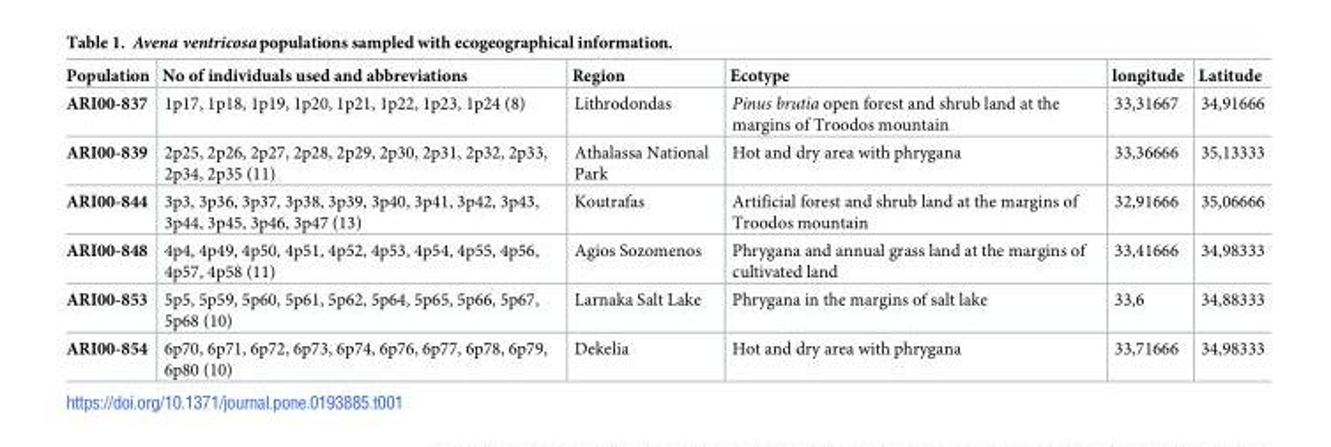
<table><thead><tr><td>Population</td><td>No of individuals used and abbreviations</td><td>Region</td><td>Ecotype</td><td>longitude</td><td>Latitude</td></tr></thead><tbody><tr><td>ARI00-837</td><td>1p17, 1p18, 1p19, 1p20, 1p21, 1p22, 1p23, 1p24 (8)</td><td>Lithrodondas</td><td>Pinus brutia open forest and shrub land at the margins of Troodos mountain</td><td>33,31667</td><td>34,91666</td></tr><tr><td>ARI00-839</td><td>2p25, 2p26, 2p27, 2p28, 2p29, 2p30, 2p31, 2p32, 2p33, 2p34, 2p35 (11)</td><td>Athalassa National Park</td><td>Hot and dry area with phrygana</td><td>33,36666</td><td>35,13333</td></tr><tr><td>ARI00-844</td><td>3p3, 3p36, 3p37, 3p38, 3p39, 3p40, 3p41, 3p42, 3p43, 3p44, 3p45, 3p46, 3p47 (13)</td><td>Koutrafas</td><td>Artificial forest and shrub land at the margins of Troodos mountain</td><td>32,91666</td><td>35,06666</td></tr><tr><td>ARI00-848</td><td>4p4, 4p49, 4p50, 4p51, 4p52, 4p53, 4p54, 4p55, 4p56, 4p57, 4p58 (11)</td><td>Agios Sozomenos</td><td>Phrygana and annual grass land at the margins of cultivated land</td><td>33,41666</td><td>34,98333</td></tr><tr><td>ARI00-853</td><td>5p5, 5p59, 5p60, 5p61, 5p62, 5p64, 5p65, 5p66, 5p67, 5p68 (10)</td><td>Larnaka Salt Lake</td><td>Phrygana in the margins of salt lake</td><td>33,6</td><td>34,88333</td></tr><tr><td>ARI00-854</td><td>6p70, 6p71, 6p72, 6p73, 6p74, 6p76, 6p77, 6p78, 6p79, 6p80 (10)</td><td>Dekelia</td><td>Hot and dry area with phrygana</td><td>33,71666</td><td>34,98333</td></tr></tbody></table>